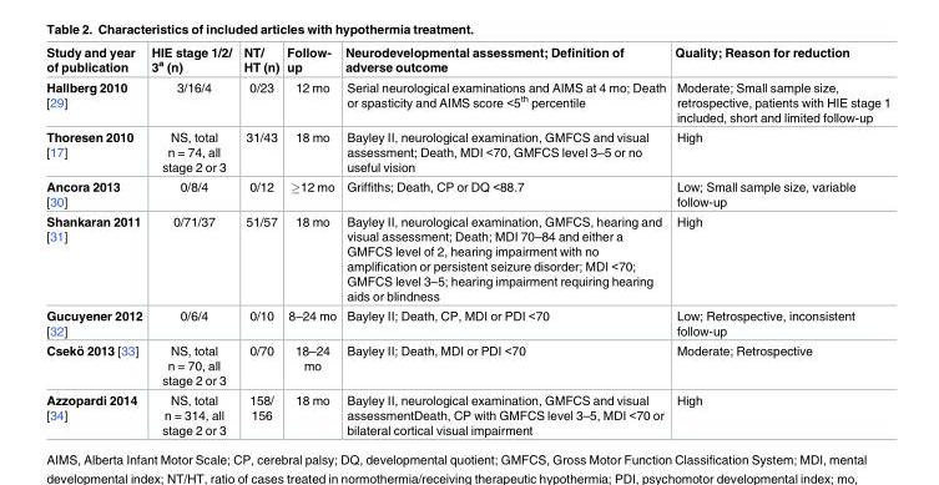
<table><thead><tr><td>Study and year of publication</td><td>HIE stage 1/2/ 3<sup>a</sup> (n)</td><td>NT/ HT (n)</td><td>Follow- up</td><td>Neurodevelopmental assessment; Definition of adverse outcome</td><td>Quality; Reason for reduction</td></tr></thead><tbody><tr><td>Hallberg 2010 [29]</td><td>3/16/4</td><td>0/23</td><td>12 mo</td><td>Serial neurological examinations and AIMS at 4 mo; Death or spasticity and AIMS score &lt;5<sup>th</sup> percentile</td><td>Moderate; Small sample size, retrospective, patients with HIE stage 1 included, short and limited follow-up</td></tr><tr><td>Thoresen 2010 [17]</td><td>NS, total n = 74, all stage 2 or 3</td><td>31/43</td><td>18 mo</td><td>Bayley II, neurological examination, GMFCS and visual assessment; Death, MDI &lt;70, GMFCS level 3–5 or no useful vision</td><td>High</td></tr><tr><td>Ancora 2013 [30]</td><td>0/8/4</td><td>0/12</td><td>≥12 mo</td><td>Griffiths; Death, CP or DQ &lt;88.7</td><td>Low; Small sample size, variable follow-up</td></tr><tr><td>Shankaran 2011 [31]</td><td>0/71/37</td><td>51/57</td><td>18 mo</td><td>Bayley II, neurological examination, GMFCS, hearing and visual assessment; Death; MDI 70–84 and either a GMFCS level of 2, hearing impairment with no amplification or persistent seizure disorder; MDI &lt;70; GMFCS level 3–5; hearing impairment requiring hearing aids or blindness</td><td>High</td></tr><tr><td>Gucuyener 2012 [32]</td><td>0/6/4</td><td>0/10</td><td>8–24 mo</td><td>Bayley II; Death, CP, MDI or PDI &lt;70</td><td>Low; Retrospective, inconsistent follow-up</td></tr><tr><td>Cseko¨ 2013 [33]</td><td>NS, total n = 70, all stage 2 or 3</td><td>0/70</td><td>18–24 mo</td><td>Bayley II; Death, MDI or PDI &lt;70</td><td>Moderate; Retrospective</td></tr><tr><td>Azzopardi 2014 [34]</td><td>NS, total n = 314, all stage 2 or 3</td><td>158/ 156</td><td>18 mo</td><td>Bayley II, neurological examination, GMFCS and visual assessmentDeath, CP with GMFCS level 3–5, MDI &lt;70 or bilateral cortical visual impairment</td><td>High</td></tr></tbody></table>